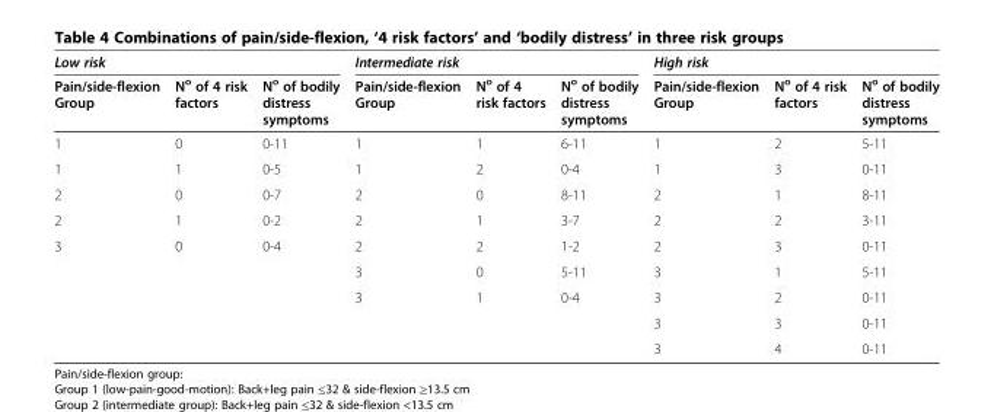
<table><thead><tr><td colspan="3">Low risk</td><td colspan="3">Intermediate risk</td><td colspan="3">High risk</td></tr><tr><td>Pain/side-flexion Group</td><td>N<sup>o</sup> of 4 risk factors</td><td>N<sup>o</sup> of bodily distress symptoms</td><td>Pain/side-flexion Group</td><td>N<sup>o</sup> of 4 risk factors</td><td>N<sup>o</sup> of bodily distress symptoms</td><td>Pain/side-flexion Group</td><td>N<sup>o</sup> of 4 risk factors</td><td>N<sup>o</sup> of bodily distress symptoms</td></tr></thead><tbody><tr><td>1</td><td>0</td><td>0-11</td><td>1</td><td>1</td><td>6-11</td><td>1</td><td>2</td><td>5-11</td></tr><tr><td>1</td><td>1</td><td>0-5</td><td>1</td><td>2</td><td>0-4</td><td>1</td><td>3</td><td>0-11</td></tr><tr><td>2</td><td>0</td><td>0-7</td><td>2</td><td>0</td><td>8-11</td><td>2</td><td>1</td><td>8-11</td></tr><tr><td>2</td><td>1</td><td>0-2</td><td>2</td><td>1</td><td>3-7</td><td>2</td><td>2</td><td>3-11</td></tr><tr><td rowspan="5">3</td><td>0</td><td>0-4</td><td>2</td><td>2</td><td>1-2</td><td>2</td><td>3</td><td>0-11</td></tr><tr><td></td><td></td><td>3</td><td>0</td><td>5-11</td><td>3</td><td>1</td><td>5-11</td></tr><tr><td></td><td></td><td>3</td><td>1</td><td>0-4</td><td>3</td><td>2</td><td>0-11</td></tr><tr><td></td><td></td><td></td><td></td><td></td><td>3</td><td>3</td><td>0-11</td></tr><tr><td></td><td></td><td></td><td></td><td></td><td>3</td><td>4</td><td>0-11</td></tr></tbody></table>